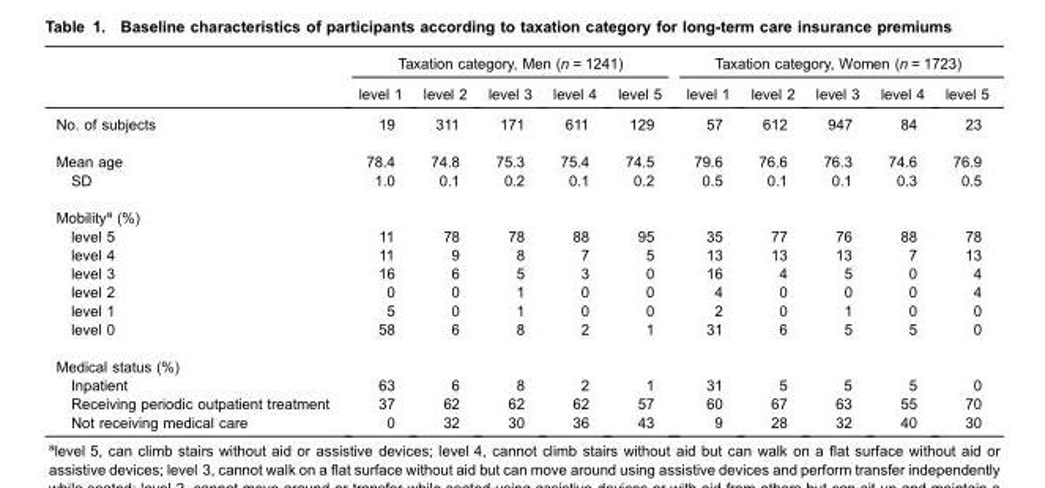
<table><thead><tr><td rowspan="2"></td><td colspan="5">Taxation category, Men (n = 1241)</td><td colspan="5">Taxation category, Women (n = 1723)</td></tr><tr><td>level 1</td><td>level 2</td><td>level 3</td><td>level 4</td><td>level 5</td><td>level 1</td><td>level 2</td><td>level 3</td><td>level 4</td><td>level 5</td></tr></thead><tbody><tr><td>No. of subjects</td><td>19</td><td>311</td><td>171</td><td>611</td><td>129</td><td>57</td><td>612</td><td>947</td><td>84</td><td>23</td></tr><tr><td>Mean age</td><td>78.4</td><td>74.8</td><td>75.3</td><td>75.4</td><td>74.5</td><td>79.6</td><td>76.6</td><td>76.3</td><td>74.6</td><td>76.9</td></tr><tr><td>SD</td><td>1.0</td><td>0.1</td><td>0.2</td><td>0.1</td><td>0.2</td><td>0.5</td><td>0.1</td><td>0.1</td><td>0.3</td><td>0.5</td></tr><tr><td colspan="11">Mobility<sup>a</sup> (%)</td></tr><tr><td>level 5</td><td>11</td><td>78</td><td>78</td><td>88</td><td>95</td><td>35</td><td>77</td><td>76</td><td>88</td><td>78</td></tr><tr><td>level 4</td><td>11</td><td>9</td><td>8</td><td>7</td><td>5</td><td>13</td><td>13</td><td>13</td><td>7</td><td>13</td></tr><tr><td>level 3</td><td>16</td><td>6</td><td>5</td><td>3</td><td>0</td><td>16</td><td>4</td><td>5</td><td>0</td><td>4</td></tr><tr><td>level 2</td><td>0</td><td>0</td><td>1</td><td>0</td><td>0</td><td>4</td><td>0</td><td>0</td><td>0</td><td>4</td></tr><tr><td>level 1</td><td>5</td><td>0</td><td>1</td><td>0</td><td>0</td><td>2</td><td>0</td><td>1</td><td>0</td><td>0</td></tr><tr><td>level 0</td><td>58</td><td>6</td><td>8</td><td>2</td><td>1</td><td>31</td><td>6</td><td>5</td><td>5</td><td>0</td></tr><tr><td colspan="11">Medical status (%)</td></tr><tr><td>Inpatient</td><td>63</td><td>6</td><td>8</td><td>2</td><td>1</td><td>31</td><td>5</td><td>5</td><td>5</td><td>0</td></tr><tr><td>Receiving periodic outpatient treatment</td><td>37</td><td>62</td><td>62</td><td>62</td><td>57</td><td>60</td><td>67</td><td>63</td><td>55</td><td>70</td></tr><tr><td>Not receiving medical care</td><td>0</td><td>32</td><td>30</td><td>36</td><td>43</td><td>9</td><td>28</td><td>32</td><td>40</td><td>30</td></tr></tbody></table>